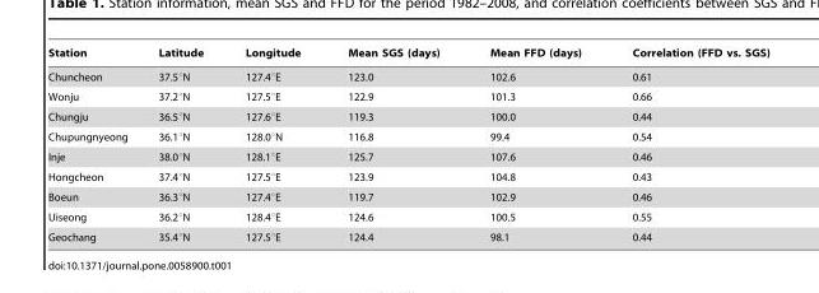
<table><thead><tr><td>Station</td><td>Latitude</td><td>Longitude</td><td>Mean SGS (days)</td><td>Mean FFD (days)</td><td>Correlation (FFD vs. SGS)</td></tr></thead><tbody><tr><td>Chuncheon</td><td>37.5°N</td><td>127.4°E</td><td>123.0</td><td>102.6</td><td>0.61</td></tr><tr><td>Wonju</td><td>37.2°N</td><td>127.5°E</td><td>122.9</td><td>101.3</td><td>0.66</td></tr><tr><td>Chungju</td><td>36.5°N</td><td>127.6°E</td><td>119.3</td><td>100.0</td><td>0.44</td></tr><tr><td>Chupungnyeong</td><td>36.1°N</td><td>128.0°N</td><td>116.8</td><td>99.4</td><td>0.54</td></tr><tr><td>Inje</td><td>38.0°N</td><td>128.1°E</td><td>125.7</td><td>107.6</td><td>0.46</td></tr><tr><td>Hongcheon</td><td>37.4°N</td><td>127.5°E</td><td>123.9</td><td>104.8</td><td>0.43</td></tr><tr><td>Boeun</td><td>36.3°N</td><td>127.4°E</td><td>119.7</td><td>102.9</td><td>0.46</td></tr><tr><td>Uiseong</td><td>36.2°N</td><td>128.4°E</td><td>124.6</td><td>100.5</td><td>0.55</td></tr><tr><td>Geochang</td><td>35.4°N</td><td>127.5°E</td><td>124.4</td><td>98.1</td><td>0.44</td></tr></tbody></table>